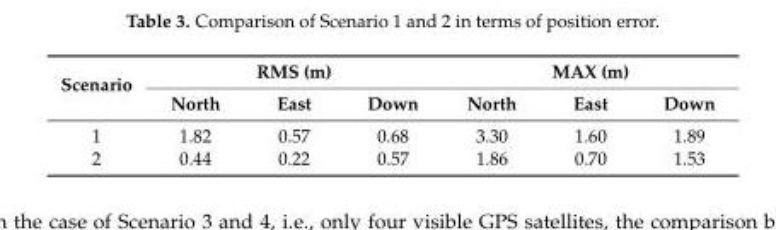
<table><thead><tr><td rowspan="2">Scenario</td><td colspan="3">RMS (m)</td><td colspan="3">MAX (m)</td></tr><tr><td>North</td><td>East</td><td>Down</td><td>North</td><td>East</td><td>Down</td></tr></thead><tbody><tr><td>1</td><td>1.82</td><td>0.57</td><td>0.68</td><td>3.30</td><td>1.60</td><td>1.89</td></tr><tr><td>2</td><td>0.44</td><td>0.22</td><td>0.57</td><td>1.86</td><td>0.70</td><td>1.53</td></tr></tbody></table>